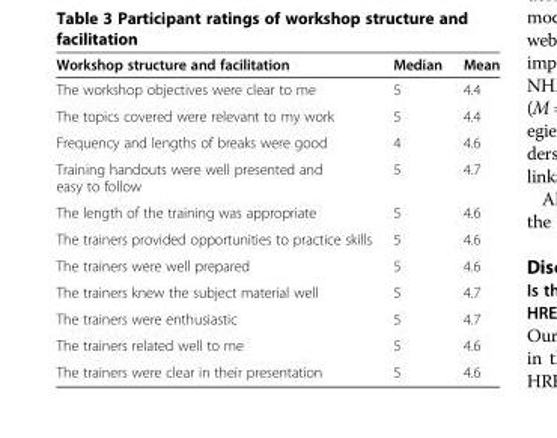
<table><thead><tr><td>Workshop structure and facilitation</td><td>Median</td><td>Mean</td></tr></thead><tbody><tr><td>The workshop objectives were clear to me</td><td>5</td><td>4.4</td></tr><tr><td>The topics covered were relevant to my work</td><td>5</td><td>4.4</td></tr><tr><td>Frequency and lengths of breaks were good</td><td>4</td><td>4.6</td></tr><tr><td>Training handouts were well presented and easy to follow</td><td>5</td><td>4.7</td></tr><tr><td>The length of the training was appropriate</td><td>5</td><td>4.6</td></tr><tr><td>The trainers provided opportunities to practice skills</td><td>5</td><td>4.6</td></tr><tr><td>The trainers were well prepared</td><td>5</td><td>4.6</td></tr><tr><td>The trainers knew the subject material well</td><td>5</td><td>4.7</td></tr><tr><td>The trainers were enthusiastic</td><td>5</td><td>4.7</td></tr><tr><td>The trainers related well to me</td><td>5</td><td>4.6</td></tr><tr><td>The trainers were clear in their presentation</td><td>5</td><td>4.6</td></tr></tbody></table>